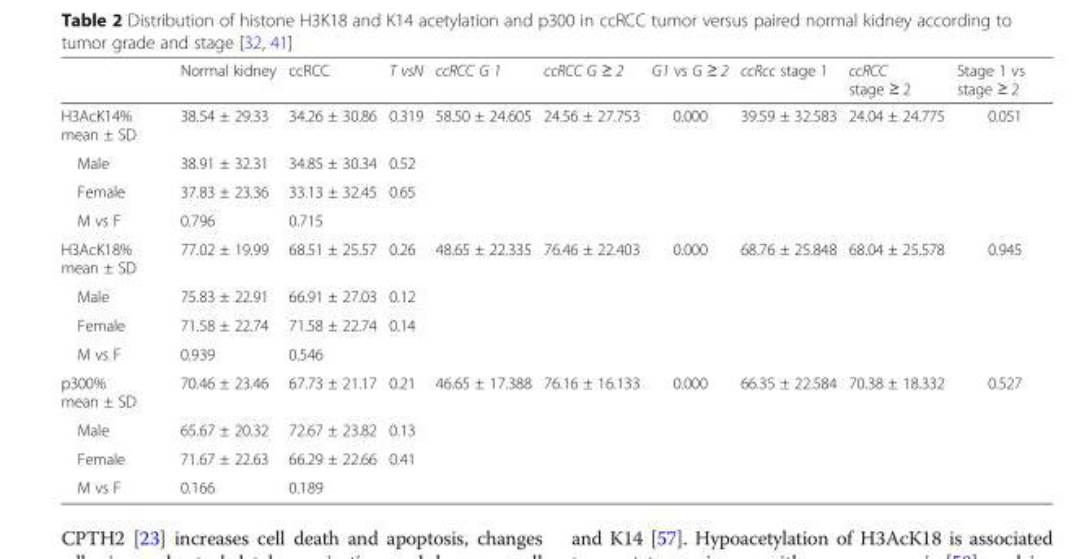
<table><thead><tr><td></td><td>Normal kidney</td><td>ccRCC</td><td>T vsN</td><td>ccRCC G 1</td><td>ccRCC G ≥ 2</td><td>G1 vs G ≥ 2</td><td>ccRcc stage 1</td><td>ccRCC stage ≥ 2</td><td>Stage 1 vs stage ≥ 2</td></tr></thead><tbody><tr><td>H3AcK14% mean ± SD</td><td>38.54 ± 29.33</td><td>34.26 ± 30.86</td><td>0.319</td><td>58.50 ± 24.605</td><td>24.56 ± 27.753</td><td>0.000</td><td>39.59 ± 32.583</td><td>24.04 ± 24.775</td><td>0.051</td></tr><tr><td>Male</td><td>38.91 ± 32.31</td><td>34.85 ± 30.34</td><td>0.52</td><td></td><td></td><td></td><td></td><td></td><td></td></tr><tr><td>Female</td><td>37.83 ± 23.36</td><td>33.13 ± 32.45</td><td>0.65</td><td></td><td></td><td></td><td></td><td></td><td></td></tr><tr><td>M vs F</td><td>0.796</td><td>0.715</td><td></td><td></td><td></td><td></td><td></td><td></td><td></td></tr><tr><td>H3AcK18% mean ± SD</td><td>77.02 ± 19.99</td><td>68.51 ± 25.57</td><td>0.26</td><td>48.65 ± 22.335</td><td>76.46 ± 22.403</td><td>0.000</td><td>68.76 ± 25.848</td><td>68.04 ± 25.578</td><td>0.945</td></tr><tr><td>Male</td><td>75.83 ± 22.91</td><td>66.91 ± 27.03</td><td>0.12</td><td></td><td></td><td></td><td></td><td></td><td></td></tr><tr><td>Female</td><td>71.58 ± 22.74</td><td>71.58 ± 22.74</td><td>0.14</td><td></td><td></td><td></td><td></td><td></td><td></td></tr><tr><td>M vs F</td><td>0.939</td><td>0.546</td><td></td><td></td><td></td><td></td><td></td><td></td><td></td></tr><tr><td>p300% mean ± SD</td><td>70.46 ± 23.46</td><td>67.73 ± 21.17</td><td>0.21</td><td>46.65 ± 17.388</td><td>76.16 ± 16.133</td><td>0.000</td><td>66.35 ± 22.584</td><td>70.38 ± 18.332</td><td>0.527</td></tr><tr><td>Male</td><td>65.67 ± 20.32</td><td>72.67 ± 23.82</td><td>0.13</td><td></td><td></td><td></td><td></td><td></td><td></td></tr><tr><td>Female</td><td>71.67 ± 22.63</td><td>66.29 ± 22.66</td><td>0.41</td><td></td><td></td><td></td><td></td><td></td><td></td></tr><tr><td>M vs F</td><td>0.166</td><td>0.189</td><td></td><td></td><td></td><td></td><td></td><td></td><td></td></tr></tbody></table>